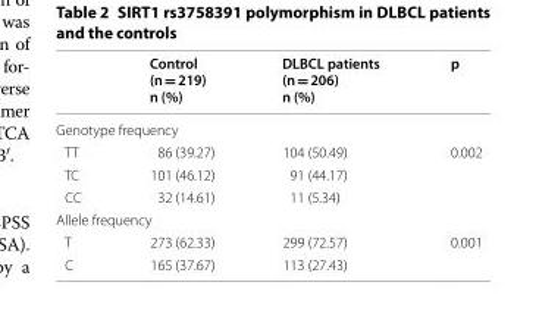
<table><thead><tr><td></td><td>Control (n = 219) n (%)</td><td>DLBCL patients (n = 206) n (%)</td><td>p</td></tr></thead><tbody><tr><td colspan="4">Genotype frequency</td></tr><tr><td>TT</td><td>86 (39.27)</td><td>104 (50.49)</td><td>0.002</td></tr><tr><td>TC</td><td>101 (46.12)</td><td>91 (44.17)</td><td></td></tr><tr><td>CC</td><td>32 (14.61)</td><td>11 (5.34)</td><td></td></tr><tr><td colspan="4">Allele frequency</td></tr><tr><td>T</td><td>273 (62.33)</td><td>299 (72.57)</td><td>0.001</td></tr><tr><td>C</td><td>165 (37.67)</td><td>113 (27.43)</td><td></td></tr></tbody></table>